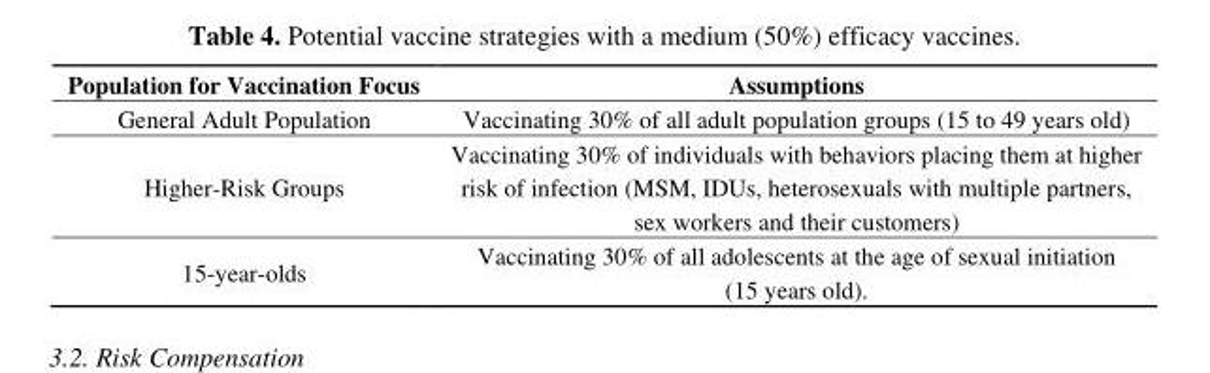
<table><thead><tr><td>Population for Vaccination Focus</td><td>Assumptions</td></tr></thead><tbody><tr><td>General Adult Population</td><td>Vaccinating 30% of all adult population groups (15 to 49 years old)</td></tr><tr><td>Higher-Risk Groups</td><td>Vaccinating 30% of individuals with behaviors placing them at higher risk of infection (MSM, IDUs, heterosexuals with multiple partners, sex workers and their customers)</td></tr><tr><td>15-year-olds</td><td>Vaccinating 30% of all adolescents at the age of sexual initiation (15 years old).</td></tr></tbody></table>